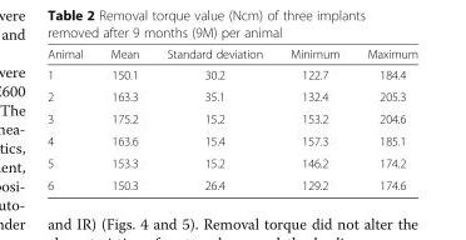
<table><thead><tr><td>Animal</td><td>Mean</td><td>Standard deviation</td><td>Minimum</td><td>Maximum</td></tr></thead><tbody><tr><td>1</td><td>150.1</td><td>30.2</td><td>122.7</td><td>184.4</td></tr><tr><td>2</td><td>163.3</td><td>35.1</td><td>132.4</td><td>205.3</td></tr><tr><td>3</td><td>175.2</td><td>15.2</td><td>153.2</td><td>204.6</td></tr><tr><td>4</td><td>163.6</td><td>15.4</td><td>157.3</td><td>185.1</td></tr><tr><td>5</td><td>153.3</td><td>15.2</td><td>146.2</td><td>174.2</td></tr><tr><td>6</td><td>150.3</td><td>26.4</td><td>129.2</td><td>174.6</td></tr></tbody></table>